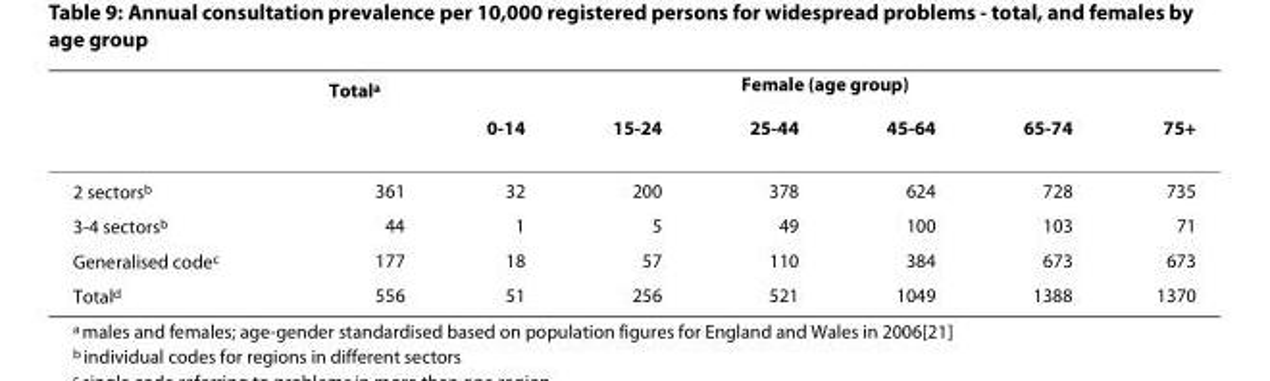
<table><thead><tr><td rowspan="2"></td><td rowspan="2">Total<sup>a</sup></td><td colspan="6">Female (age group)</td></tr><tr><td>0-14</td><td>15-24</td><td>25-44</td><td>45-64</td><td>65-74</td><td>75+</td></tr></thead><tbody><tr><td>2 sectors<sup>b</sup></td><td>361</td><td>32</td><td>200</td><td>378</td><td>624</td><td>728</td><td>735</td></tr><tr><td>3-4 sectors<sup>b</sup></td><td>44</td><td>1</td><td>5</td><td>49</td><td>100</td><td>103</td><td>71</td></tr><tr><td>Generalised code<sup>c</sup></td><td>177</td><td>18</td><td>57</td><td>110</td><td>384</td><td>673</td><td>673</td></tr><tr><td>Total<sup>d</sup></td><td>556</td><td>51</td><td>256</td><td>521</td><td>1049</td><td>1388</td><td>1370</td></tr></tbody></table>